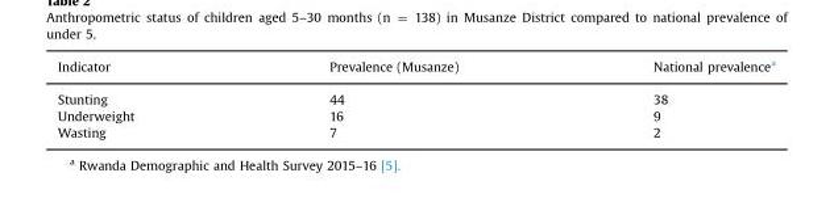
<table><thead><tr><td>Indicator</td><td>Prevalence (Musanze)</td><td>National prevalence<sup>a</sup></td></tr></thead><tbody><tr><td>Stunting</td><td>44</td><td>38</td></tr><tr><td>Underweight</td><td>16</td><td>9</td></tr><tr><td>Wasting</td><td>7</td><td>2</td></tr></tbody></table>